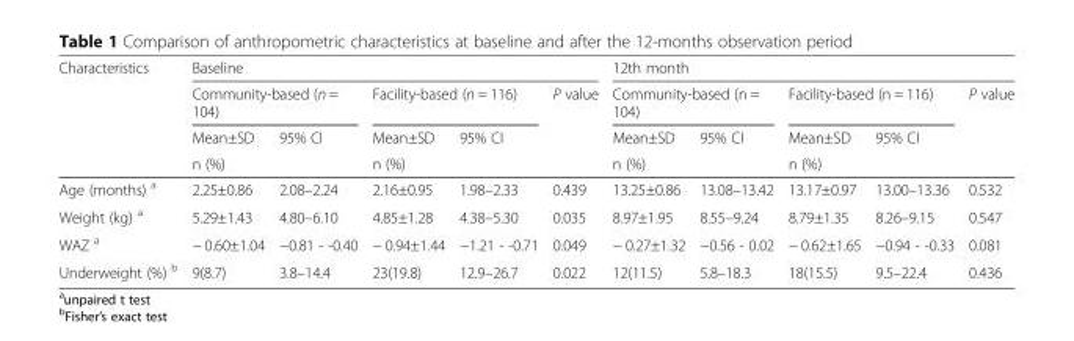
<table><thead><tr><td rowspan="4">Characteristics</td><td colspan="5">Baseline</td><td colspan="5">12th month</td></tr><tr><td colspan="2">Community-based (n = 104)</td><td colspan="2">Facility-based (n = 116)</td><td rowspan="3">P value</td><td colspan="2">Community-based (n = 104)</td><td colspan="2">Facility-based (n = 116)</td><td rowspan="3">P value</td></tr><tr><td rowspan="2">Mean±SD n (%)</td><td rowspan="2">95% CI</td><td rowspan="2">Mean±SD n (%)</td><td rowspan="2">95% CI</td><td rowspan="2">Mean±SD n (%)</td><td rowspan="2">95% CI</td><td rowspan="2">Mean±SD n (%)</td><td rowspan="2">95% CI</td></tr><tr></tr></thead><tbody><tr><td>Age (months) <sup>a</sup></td><td>2.25±0.86</td><td>2.08–2.24</td><td>2.16±0.95</td><td>1.98–2.33</td><td>0.439</td><td>13.25±0.86</td><td>13.08–13.42</td><td>13.17±0.97</td><td>13.00–13.36</td><td>0.532</td></tr><tr><td>Weight (kg) <sup>a</sup></td><td>5.29±1.43</td><td>4.80–6.10</td><td>4.85±1.28</td><td>4.38–5.30</td><td>0.035</td><td>8.97±1.95</td><td>8.55–9.24</td><td>8.79±1.35</td><td>8.26–9.15</td><td>0.547</td></tr><tr><td>WAZ <sup>a</sup></td><td>− 0.60±1.04</td><td>−0.81 - -0.40</td><td>− 0.94±1.44</td><td>−1.21 - -0.71</td><td>0.049</td><td>− 0.27±1.32</td><td>−0.56 - 0.02</td><td>− 0.62±1.65</td><td>−0.94 - -0.33</td><td>0.081</td></tr><tr><td>Underweight (%) <sup>b</sup></td><td>9(8.7)</td><td>3.8–14.4</td><td>23(19.8)</td><td>12.9–26.7</td><td>0.022</td><td>12(11.5)</td><td>5.8–18.3</td><td>18(15.5)</td><td>9.5–22.4</td><td>0.436</td></tr></tbody></table>